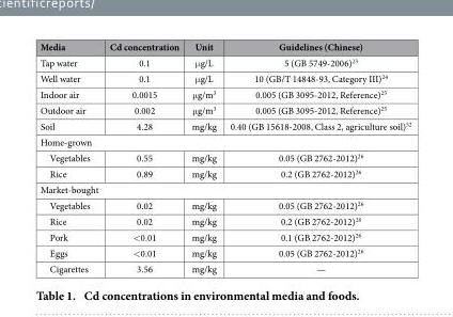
<table><thead><tr><td>Media</td><td>Cd concentration</td><td>Unit</td><td>Guidelines (Chinese)</td></tr></thead><tbody><tr><td>Tap water</td><td>0.1</td><td>μ g/L</td><td>5 (GB 5749-2006)<sup>23</sup></td></tr><tr><td>Well water</td><td>0.1</td><td>μ g/L</td><td>10 (GB/T 14848-93, Category III)<sup>24</sup></td></tr><tr><td>Indoor air</td><td>0.0015</td><td>μ g/m<sup>3</sup></td><td>0.005 (GB 3095-2012, Reference)<sup>25</sup></td></tr><tr><td>Outdoor air</td><td>0.002</td><td>μ g/m<sup>3</sup></td><td>0.005 (GB 3095-2012, Reference)<sup>25</sup></td></tr><tr><td>Soil</td><td>4.28</td><td>mg/kg</td><td>0.40 (GB 15618-2008, Class 2, agriculture soil)<sup>52</sup></td></tr><tr><td colspan="4">Home-grown</td></tr><tr><td>Vegetables</td><td>0.55</td><td>mg/kg</td><td>0.05 (GB 2762-2012)<sup>26</sup></td></tr><tr><td>Rice</td><td>0.89</td><td>mg/kg</td><td>0.2 (GB 2762-2012)<sup>26</sup></td></tr><tr><td colspan="4">Market-bought</td></tr><tr><td>Vegetables</td><td>0.02</td><td>mg/kg</td><td>0.05 (GB 2762-2012)<sup>26</sup></td></tr><tr><td>Rice</td><td>0.02</td><td>mg/kg</td><td>0.2 (GB 2762-2012)<sup>26</sup></td></tr><tr><td>Pork</td><td>&lt; 0.01</td><td>mg/kg</td><td>0.1 (GB 2762-2012)<sup>26</sup></td></tr><tr><td>Eggs</td><td>&lt; 0.01</td><td>mg/kg</td><td>0.05 (GB 2762-2012)<sup>26</sup></td></tr><tr><td>Cigarettes</td><td>3.56</td><td>mg/kg</td><td>—</td></tr></tbody></table>